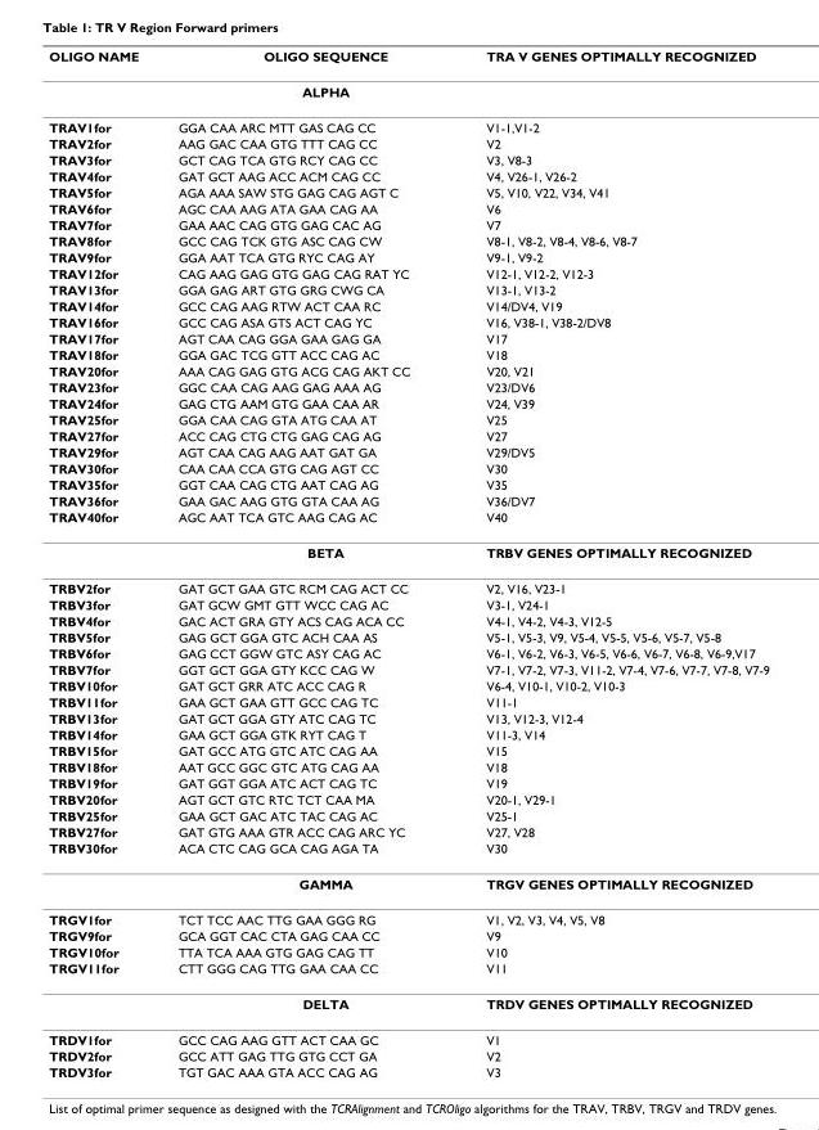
<table><thead><tr><td>OLIGO NAME</td><td>OLIGO SEQUENCE</td><td>TRA V GENES OPTIMALLY RECOGNIZED</td></tr></thead><tbody><tr><td></td><td>ALPHA</td><td></td></tr><tr><td>TRAV1for</td><td>GGA CAA ARC MTT GAS CAG CC</td><td>V1-1,V1-2</td></tr><tr><td>TRAV2for</td><td>AAG GAC CAA GTG TTT CAG CC</td><td>V2</td></tr><tr><td>TRAV3for</td><td>GCT CAG TCA GTG RCY CAG CC</td><td>V3, V8-3</td></tr><tr><td>TRAV4for</td><td>GAT GCT AAG ACC ACM CAG CC</td><td>V4, V26-1, V26-2</td></tr><tr><td>TRAV5for</td><td>AGA AAA SAW STG GAG CAG AGT C</td><td>V5, V10, V22, V34, V41</td></tr><tr><td>TRAV6for</td><td>AGC CAA AAG ATA GAA CAG AA</td><td>V6</td></tr><tr><td>TRAV7for</td><td>GAA AAC CAG GTG GAG CAC AG</td><td>V7</td></tr><tr><td>TRAV8for</td><td>GCC CAG TCK GTG ASC CAG CW</td><td>V8-1, V8-2, V8-4, V8-6, V8-7</td></tr><tr><td>TRAV9for</td><td>GGA AAT TCA GTG RYC CAG AY</td><td>V9-1, V9-2</td></tr><tr><td>TRAV12for</td><td>CAG AAG GAG GTG GAG CAG RAT YC</td><td>V12-1, V12-2, V12-3</td></tr><tr><td>TRAV13for</td><td>GGA GAG ART GTG GRG CWG CA</td><td>V13-1, V13-2</td></tr><tr><td>TRAV14for</td><td>GCC CAG AAG RTW ACT CAA RC</td><td>V14/DV4, V19</td></tr><tr><td>TRAV16for</td><td>GCC CAG ASA GTS ACT CAG YC</td><td>V16, V38-1, V38-2/DV8</td></tr><tr><td>TRAV17for</td><td>AGT CAA CAG GGA GAA GAG GA</td><td>V17</td></tr><tr><td>TRAV18for</td><td>GGA GAC TCG GTT ACC CAG AC</td><td>V18</td></tr><tr><td>TRAV20for</td><td>AAA CAG GAG GTG ACG CAG AKT CC</td><td>V20, V21</td></tr><tr><td>TRAV23for</td><td>GGC CAA CAG AAG GAG AAA AG</td><td>V23/DV6</td></tr><tr><td>TRAV24for</td><td>GAG CTG AAM GTG GAA CAA AR</td><td>V24, V39</td></tr><tr><td>TRAV25for</td><td>GGA CAA CAG GTA ATG CAA AT</td><td>V25</td></tr><tr><td>TRAV27for</td><td>ACC CAG CTG CTG GAG CAG AG</td><td>V27</td></tr><tr><td>TRAV29for</td><td>AGT CAA CAG AAG AAT GAT GA</td><td>V29/DV5</td></tr><tr><td>TRAV30for</td><td>CAA CAA CCA GTG CAG AGT CC</td><td>V30</td></tr><tr><td>TRAV35for</td><td>GGT CAA CAG CTG AAT CAG AG</td><td>V35</td></tr><tr><td>TRAV36for</td><td>GAA GAC AAG GTG GTA CAA AG</td><td>V36/DV7</td></tr><tr><td rowspan="2">TRAV40for</td><td>AGC AAT TCA GTC AAG CAG AC</td><td>V40</td></tr><tr><td>BETA</td><td>TRBV GENES OPTIMALLY RECOGNIZED</td></tr><tr><td>TRBV2for</td><td>GAT GCT GAA GTC RCM CAG ACT CC</td><td>V2, V16, V23-1</td></tr><tr><td>TRBV3for</td><td>GAT GCW GMT GTT WCC CAG AC</td><td>V3-1, V24-1</td></tr><tr><td>TRBV4for</td><td>GAC ACT GRA GTY ACS CAG ACA CC</td><td>V4-1, V4-2, V4-3, V12-5</td></tr><tr><td>TRBV5for</td><td>GAG GCT GGA GTC ACH CAA AS</td><td>V5-1, V5-3, V9, V5-4, V5-5, V5-6, V5-7, V5-8</td></tr><tr><td>TRBV6for</td><td>GAG CCT GGW GTC ASY CAG AC</td><td>V6-1, V6-2, V6-3, V6-5, V6-6, V6-7, V6-8, V6-9,V17</td></tr><tr><td>TRBV7for</td><td>GGT GCT GGA GTY KCC CAG W</td><td>V7-1, V7-2, V7-3, V11-2, V7-4, V7-6, V7-7, V7-8, V7-9</td></tr><tr><td>TRBV10for</td><td>GAT GCT GRR ATC ACC CAG R</td><td>V6-4, V10-1, V10-2, V10-3</td></tr><tr><td>TRBV11for</td><td>GAA GCT GAA GTT GCC CAG TC</td><td>V11-1</td></tr><tr><td>TRBV13for</td><td>GAT GCT GGA GTY ATC CAG TC</td><td>V13, V12-3, V12-4</td></tr><tr><td>TRBV14for</td><td>GAA GCT GGA GTK RYT CAG T</td><td>V11-3, V14</td></tr><tr><td>TRBV15for</td><td>GAT GCC ATG GTC ATC CAG AA</td><td>V15</td></tr><tr><td>TRBV18for</td><td>AAT GCC GGC GTC ATG CAG AA</td><td>V18</td></tr><tr><td>TRBV19for</td><td>GAT GGT GGA ATC ACT CAG TC</td><td>V19</td></tr><tr><td>TRBV20for</td><td>AGT GCT GTC RTC TCT CAA MA</td><td>V20-1, V29-1</td></tr><tr><td>TRBV25for</td><td>GAA GCT GAC ATC TAC CAG AC</td><td>V25-1</td></tr><tr><td>TRBV27for</td><td>GAT GTG AAA GTR ACC CAG ARC YC</td><td>V27, V28</td></tr><tr><td rowspan="2">TRBV30for</td><td>ACA CTC CAG GCA CAG AGA TA</td><td>V30</td></tr><tr><td>GAMMA</td><td>TRGV GENES OPTIMALLY RECOGNIZED</td></tr><tr><td>TRGV1for</td><td>TCT TCC AAC TTG GAA GGG RG</td><td>V1, V2, V3, V4, V5, V8</td></tr><tr><td>TRGV9for</td><td>GCA GGT CAC CTA GAG CAA CC</td><td>V9</td></tr><tr><td>TRGV10for</td><td>TTA TCA AAA GTG GAG CAG TT</td><td>V10</td></tr><tr><td rowspan="2">TRGV11for</td><td>CTT GGG CAG TTG GAA CAA CC</td><td>V11</td></tr><tr><td>DELTA</td><td>TRDV GENES OPTIMALLY RECOGNIZED</td></tr><tr><td>TRDV1for</td><td>GCC CAG AAG GTT ACT CAA GC</td><td>V1</td></tr><tr><td>TRDV2for</td><td>GCC ATT GAG TTG GTG CCT GA</td><td>V2</td></tr><tr><td>TRDV3for</td><td>TGT GAC AAA GTA ACC CAG AG</td><td>V3</td></tr></tbody></table>